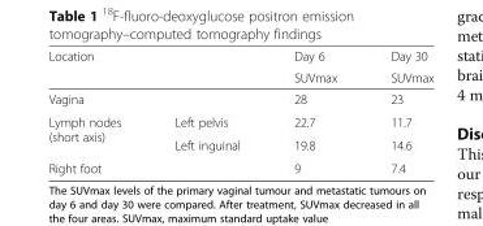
<table><thead><tr><td colspan="2">Location</td><td rowspan="2">Day 6 SUVmax</td><td rowspan="2">Day 30 SUVmax</td></tr><tr><td></td><td></td></tr></thead><tbody><tr><td>Vagina</td><td></td><td>28</td><td>23</td></tr><tr><td rowspan="2">Lymph nodes (short axis)</td><td>Left pelvis</td><td>22.7</td><td>11.7</td></tr><tr><td>Left inguinal</td><td>19.8</td><td>14.6</td></tr><tr><td>Right foot</td><td></td><td>9</td><td>7.4</td></tr></tbody></table>